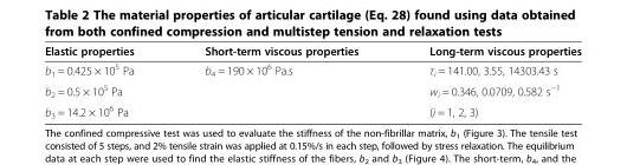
<table><thead><tr><td>Elastic properties</td><td>Short-term viscous properties</td><td>Long-term viscous properties</td></tr></thead><tbody><tr><td>b<sub>1</sub> = 0.425 × 10<sup>5</sup> Pa</td><td rowspan="3">b<sub>4</sub> = 190 × 10<sup>6</sup> Pa.s</td><td>τ<sub>i</sub> = 141.00, 3.55, 14303.43 s</td></tr><tr><td>b<sub>2</sub> = 0.5 × 10<sup>5</sup> Pa</td><td>w<sub>i</sub> = 0.346, 0.0709, 0.582 s<sup>−1</sup></td></tr><tr><td>b<sub>3</sub> = 14.2 × 10<sup>6</sup> Pa</td><td>(i = 1, 2, 3)</td></tr></tbody></table>